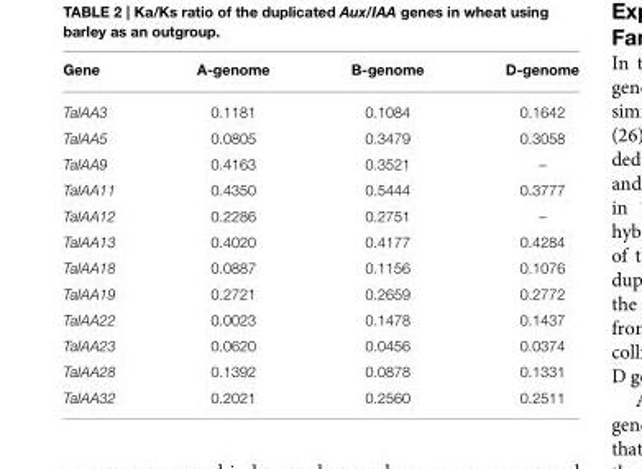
<table><thead><tr><td>Gene</td><td>A-genome</td><td>B-genome</td><td>D-genome</td></tr></thead><tbody><tr><td>TaIAA3</td><td>0.1181</td><td>0.1084</td><td>0.1642</td></tr><tr><td>TaIAA5</td><td>0.0805</td><td>0.3479</td><td>0.3058</td></tr><tr><td>TaIAA9</td><td>0.4163</td><td>0.3521</td><td>–</td></tr><tr><td>TaIAA11</td><td>0.4350</td><td>0.5444</td><td>0.3777</td></tr><tr><td>TaIAA12</td><td>0.2286</td><td>0.2751</td><td>–</td></tr><tr><td>TaIAA13</td><td>0.4020</td><td>0.4177</td><td>0.4284</td></tr><tr><td>TaIAA18</td><td>0.0887</td><td>0.1156</td><td>0.1076</td></tr><tr><td>TaIAA19</td><td>0.2721</td><td>0.2659</td><td>0.2772</td></tr><tr><td>TaIAA22</td><td>0.0023</td><td>0.1478</td><td>0.1437</td></tr><tr><td>TaIAA23</td><td>0.0620</td><td>0.0456</td><td>0.0374</td></tr><tr><td>TaIAA28</td><td>0.1392</td><td>0.0878</td><td>0.1331</td></tr><tr><td>TaIAA32</td><td>0.2021</td><td>0.2560</td><td>0.2511</td></tr></tbody></table>